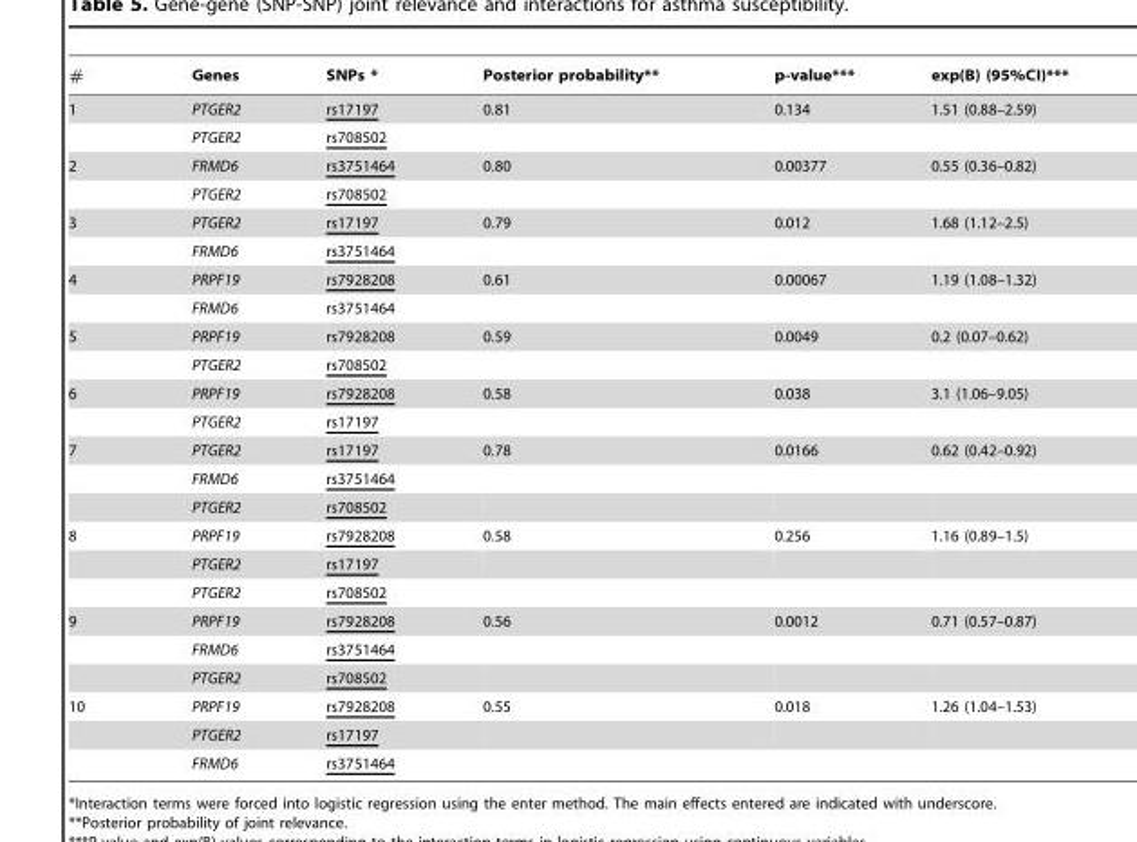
<table><thead><tr><td>#</td><td>Genes</td><td>SNPs *</td><td>Posterior probability**</td><td>p-value***</td><td>exp(B) (95%CI)***</td></tr></thead><tbody><tr><td rowspan="2">1</td><td>PTGER2</td><td>rs17197</td><td>0.81</td><td>0.134</td><td>1.51 (0.88–2.59)</td></tr><tr><td>PTGER2</td><td>rs708502</td><td></td><td></td><td></td></tr><tr><td rowspan="2">2</td><td>FRMD6</td><td>rs3751464</td><td>0.80</td><td>0.00377</td><td>0.55 (0.36–0.82)</td></tr><tr><td>PTGER2</td><td>rs708502</td><td></td><td></td><td></td></tr><tr><td rowspan="2">3</td><td>PTGER2</td><td>rs17197</td><td>0.79</td><td>0.012</td><td>1.68 (1.12–2.5)</td></tr><tr><td>FRMD6</td><td>rs3751464</td><td></td><td></td><td></td></tr><tr><td rowspan="2">4</td><td>PRPF19</td><td>rs7928208</td><td>0.61</td><td>0.00067</td><td>1.19 (1.08–1.32)</td></tr><tr><td>FRMD6</td><td>rs3751464</td><td></td><td></td><td></td></tr><tr><td rowspan="2">5</td><td>PRPF19</td><td>rs7928208</td><td>0.59</td><td>0.0049</td><td>0.2 (0.07–0.62)</td></tr><tr><td>PTGER2</td><td>rs708502</td><td></td><td></td><td></td></tr><tr><td rowspan="2">6</td><td>PRPF19</td><td>rs7928208</td><td>0.58</td><td>0.038</td><td>3.1 (1.06–9.05)</td></tr><tr><td>PTGER2</td><td>rs17197</td><td></td><td></td><td></td></tr><tr><td rowspan="3">7</td><td>PTGER2</td><td>rs17197</td><td>0.78</td><td>0.0166</td><td>0.62 (0.42–0.92)</td></tr><tr><td>FRMD6</td><td>rs3751464</td><td></td><td></td><td></td></tr><tr><td>PTGER2</td><td>rs708502</td><td></td><td></td><td></td></tr><tr><td rowspan="3">8</td><td>PRPF19</td><td>rs7928208</td><td>0.58</td><td>0.256</td><td>1.16 (0.89–1.5)</td></tr><tr><td>PTGER2</td><td>rs17197</td><td></td><td></td><td></td></tr><tr><td>PTGER2</td><td>rs708502</td><td></td><td></td><td></td></tr><tr><td rowspan="3">9</td><td>PRPF19</td><td>rs7928208</td><td>0.56</td><td>0.0012</td><td>0.71 (0.57–0.87)</td></tr><tr><td>FRMD6</td><td>rs3751464</td><td></td><td></td><td></td></tr><tr><td>PTGER2</td><td>rs708502</td><td></td><td></td><td></td></tr><tr><td rowspan="3">10</td><td>PRPF19</td><td>rs7928208</td><td>0.55</td><td>0.018</td><td>1.26 (1.04–1.53)</td></tr><tr><td>PTGER2</td><td>rs17197</td><td></td><td></td><td></td></tr><tr><td>FRMD6</td><td>rs3751464</td><td></td><td></td><td></td></tr></tbody></table>